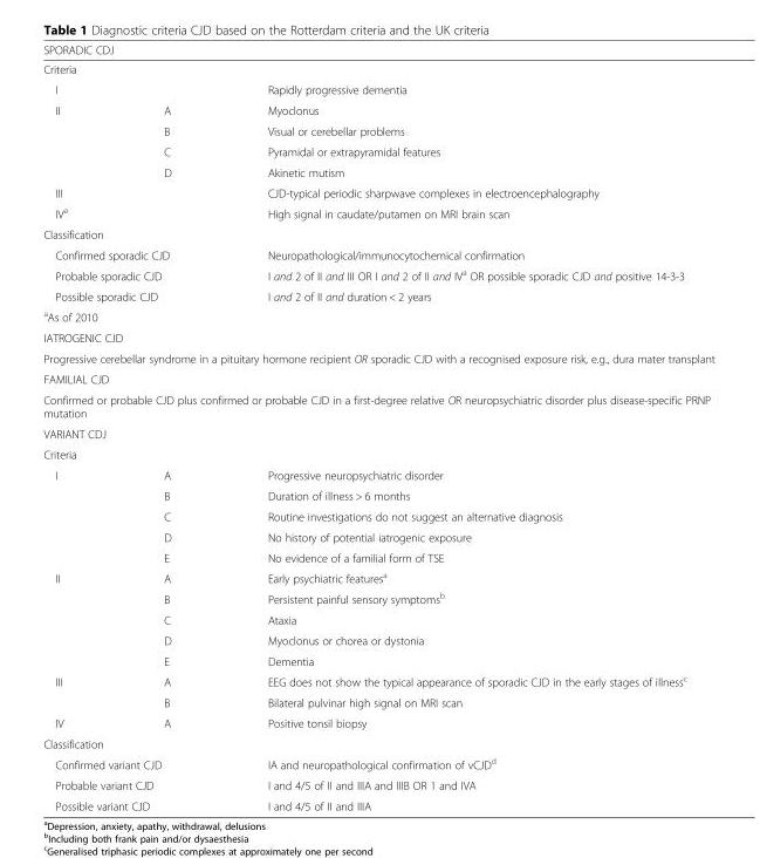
<table><thead><tr><td rowspan="2" colspan="3">SPORADIC CDJ Criteria</td></tr><tr></tr><tr><td>I</td><td></td><td>Rapidly progressive dementia</td></tr></thead><tbody><tr><td rowspan="4">II</td><td>A</td><td>Myoclonus</td></tr><tr><td>B</td><td>Visual or cerebellar problems</td></tr><tr><td>C</td><td>Pyramidal or extrapyramidal features</td></tr><tr><td>D</td><td>Akinetic mutism</td></tr><tr><td>III</td><td></td><td>CJD-typical periodic sharpwave complexes in electroencephalography</td></tr><tr><td>IV<sup>a</sup></td><td></td><td>High signal in caudate/putamen on MRI brain scan</td></tr><tr><td colspan="3">Classification</td></tr><tr><td colspan="2">Confirmed sporadic CJD</td><td>Neuropathological/immunocytochemical confirmation</td></tr><tr><td colspan="2">Probable sporadic CJD</td><td>I and 2 of II and III OR I and 2 of II and IV<sup>a</sup> OR possible sporadic CJD and positive 14-3-3</td></tr><tr><td colspan="2">Possible sporadic CJD</td><td>I and 2 of II and duration &lt; 2 years</td></tr><tr><td colspan="3"><sup>a</sup>As of 2010</td></tr><tr><td colspan="3">IATROGENIC CJD</td></tr><tr><td colspan="3">Progressive cerebellar syndrome in a pituitary hormone recipient OR sporadic CJD with a recognised exposure risk, e.g., dura mater transplant</td></tr><tr><td colspan="3">FAMILIAL CJD</td></tr><tr><td colspan="3">Confirmed or probable CJD plus confirmed or probable CJD in a first-degree relative OR neuropsychiatric disorder plus disease-specific PRNP mutation</td></tr><tr><td colspan="3">VARIANT CDJ</td></tr><tr><td colspan="3">Criteria</td></tr><tr><td rowspan="5">I</td><td>A</td><td>Progressive neuropsychiatric disorder</td></tr><tr><td>B</td><td>Duration of illness &gt; 6 months</td></tr><tr><td>C</td><td>Routine investigations do not suggest an alternative diagnosis</td></tr><tr><td>D</td><td>No history of potential iatrogenic exposure</td></tr><tr><td>E</td><td>No evidence of a familial form of TSE</td></tr><tr><td rowspan="5">II</td><td>A</td><td>Early psychiatric features<sup>a</sup></td></tr><tr><td>B</td><td>Persistent painful sensory symptoms<sup>b</sup></td></tr><tr><td>C</td><td>Ataxia</td></tr><tr><td>D</td><td>Myoclonus or chorea or dystonia</td></tr><tr><td>E</td><td>Dementia</td></tr><tr><td rowspan="2">III</td><td>A</td><td>EEG does not show the typical appearance of sporadic CJD in the early stages of illness<sup>c</sup></td></tr><tr><td>B</td><td>Bilateral pulvinar high signal on MRI scan</td></tr><tr><td>IV</td><td>A</td><td>Positive tonsil biopsy</td></tr><tr><td colspan="3">Classification</td></tr><tr><td colspan="2">Confirmed variant CJD</td><td>IA and neuropathological confirmation of vCJD<sup>d</sup></td></tr><tr><td colspan="2">Probable variant CJD</td><td>I and 4/5 of II and IIIA and IIIB OR 1 and IVA</td></tr><tr><td colspan="2">Possible variant CJD</td><td>I and 4/5 of II and IIIA</td></tr></tbody></table>